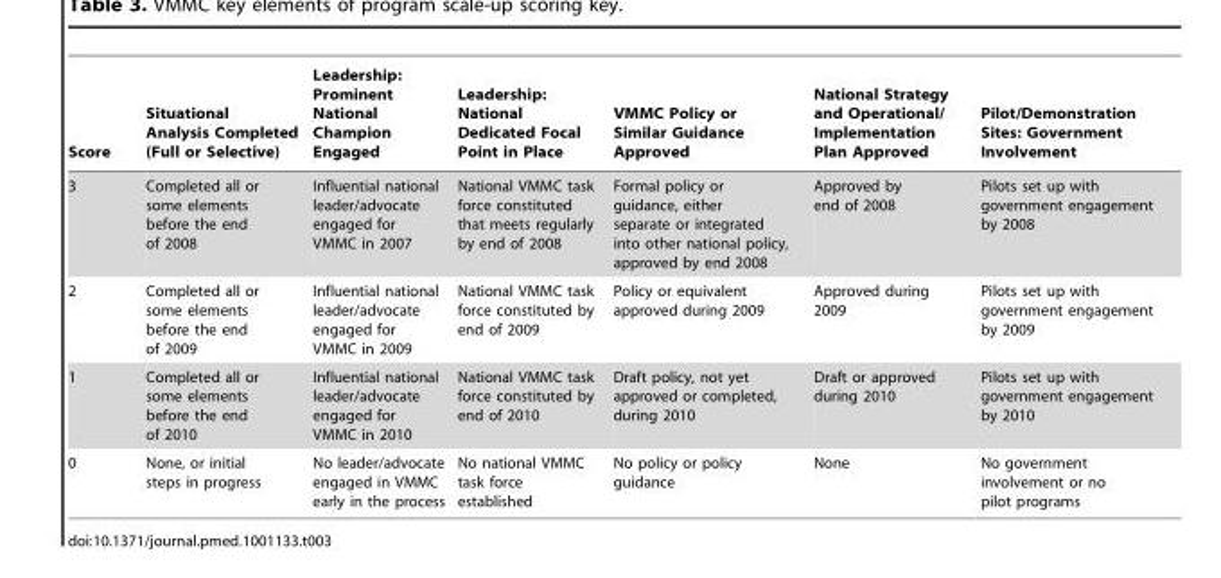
<table><thead><tr><td>Score</td><td>Situational Analysis Completed (Full or Selective)</td><td>Leadership: Prominent National Champion Engaged</td><td>Leadership: National Dedicated Focal Point in Place</td><td>VMMC Policy or Similar Guidance Approved</td><td>National Strategy and Operational/ Implementation Plan Approved</td><td>Pilot/Demonstration Sites: Government Involvement</td></tr></thead><tbody><tr><td>3</td><td>Completed all or some elements before the end of 2008</td><td>Influential national leader/advocate engaged for VMMC in 2007</td><td>National VMMC task force constituted that meets regularly by end of 2008</td><td>Formal policy or guidance, either separate or integrated into other national policy, approved by end 2008</td><td>Approved by end of 2008</td><td>Pilots set up with government engagement by 2008</td></tr><tr><td>2</td><td>Completed all or some elements before the end of 2009</td><td>Influential national leader/advocate engaged for VMMC in 2009</td><td>National VMMC task force constituted by end of 2009</td><td>Policy or equivalent approved during 2009</td><td>Approved during 2009</td><td>Pilots set up with government engagement by 2009</td></tr><tr><td>1</td><td>Completed all or some elements before the end of 2010</td><td>Influential national leader/advocate engaged for VMMC in 2010</td><td>National VMMC task force constituted by end of 2010</td><td>Draft policy, not yet approved or completed, during 2010</td><td>Draft or approved during 2010</td><td>Pilots set up with government engagement by 2010</td></tr><tr><td>0</td><td>None, or initial steps in progress</td><td>No leader/advocate engaged in VMMC early in the process</td><td>No national VMMC task force established</td><td>No policy or policy guidance</td><td>None</td><td>No government involvement or no pilot programs</td></tr></tbody></table>